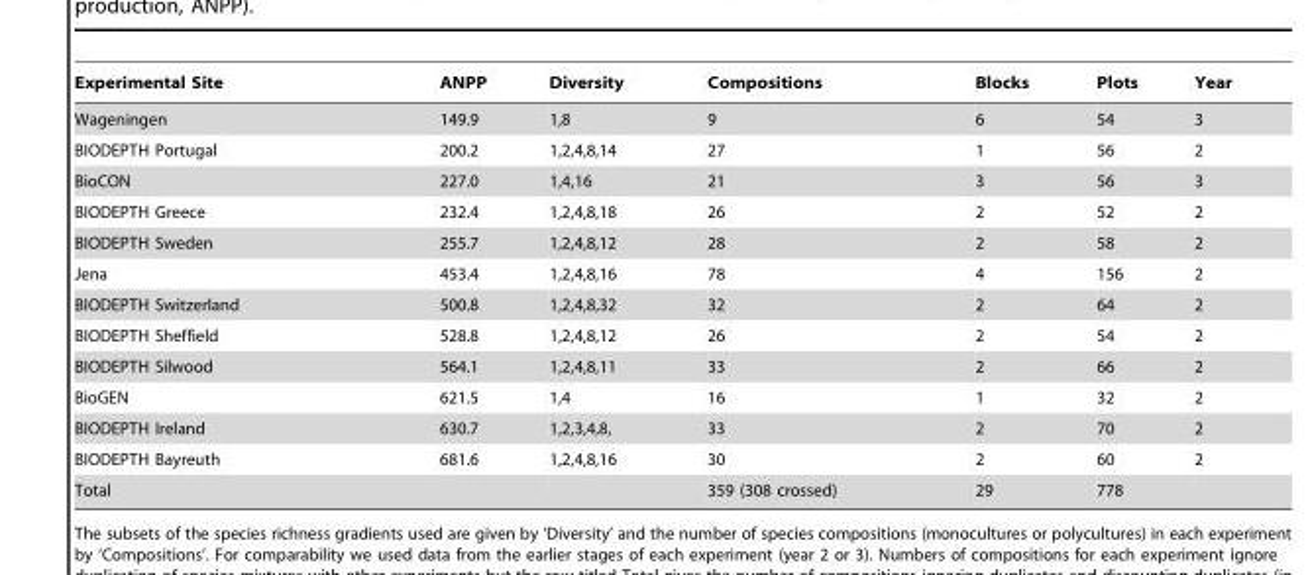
<table><thead><tr><td>Experimental Site</td><td>ANPP</td><td>Diversity</td><td>Compositions</td><td>Blocks</td><td>Plots</td><td>Year</td></tr></thead><tbody><tr><td>Wageningen</td><td>149.9</td><td>1,8</td><td>9</td><td>6</td><td>54</td><td>3</td></tr><tr><td>BIODEPTH Portugal</td><td>200.2</td><td>1,2,4,8,14</td><td>27</td><td>1</td><td>56</td><td>2</td></tr><tr><td>BioCON</td><td>227.0</td><td>1,4,16</td><td>21</td><td>3</td><td>56</td><td>3</td></tr><tr><td>BIODEPTH Greece</td><td>232.4</td><td>1,2,4,8,18</td><td>26</td><td>2</td><td>52</td><td>2</td></tr><tr><td>BIODEPTH Sweden</td><td>255.7</td><td>1,2,4,8,12</td><td>28</td><td>2</td><td>58</td><td>2</td></tr><tr><td>Jena</td><td>453.4</td><td>1,2,4,8,16</td><td>78</td><td>4</td><td>156</td><td>2</td></tr><tr><td>BIODEPTH Switzerland</td><td>500.8</td><td>1,2,4,8,32</td><td>32</td><td>2</td><td>64</td><td>2</td></tr><tr><td>BIODEPTH Sheffield</td><td>528.8</td><td>1,2,4,8,12</td><td>26</td><td>2</td><td>54</td><td>2</td></tr><tr><td>BIODEPTH Silwood</td><td>564.1</td><td>1,2,4,8,11</td><td>33</td><td>2</td><td>66</td><td>2</td></tr><tr><td>BioGEN</td><td>621.5</td><td>1,4</td><td>16</td><td>1</td><td>32</td><td>2</td></tr><tr><td>BIODEPTH Ireland</td><td>630.7</td><td>1,2,3,4,8,</td><td>33</td><td>2</td><td>70</td><td>2</td></tr><tr><td>BIODEPTH Bayreuth</td><td>681.6</td><td>1,2,4,8,16</td><td>30</td><td>2</td><td>60</td><td>2</td></tr><tr><td>Total</td><td></td><td></td><td>359 (308 crossed)</td><td>29</td><td>778</td><td></td></tr></tbody></table>